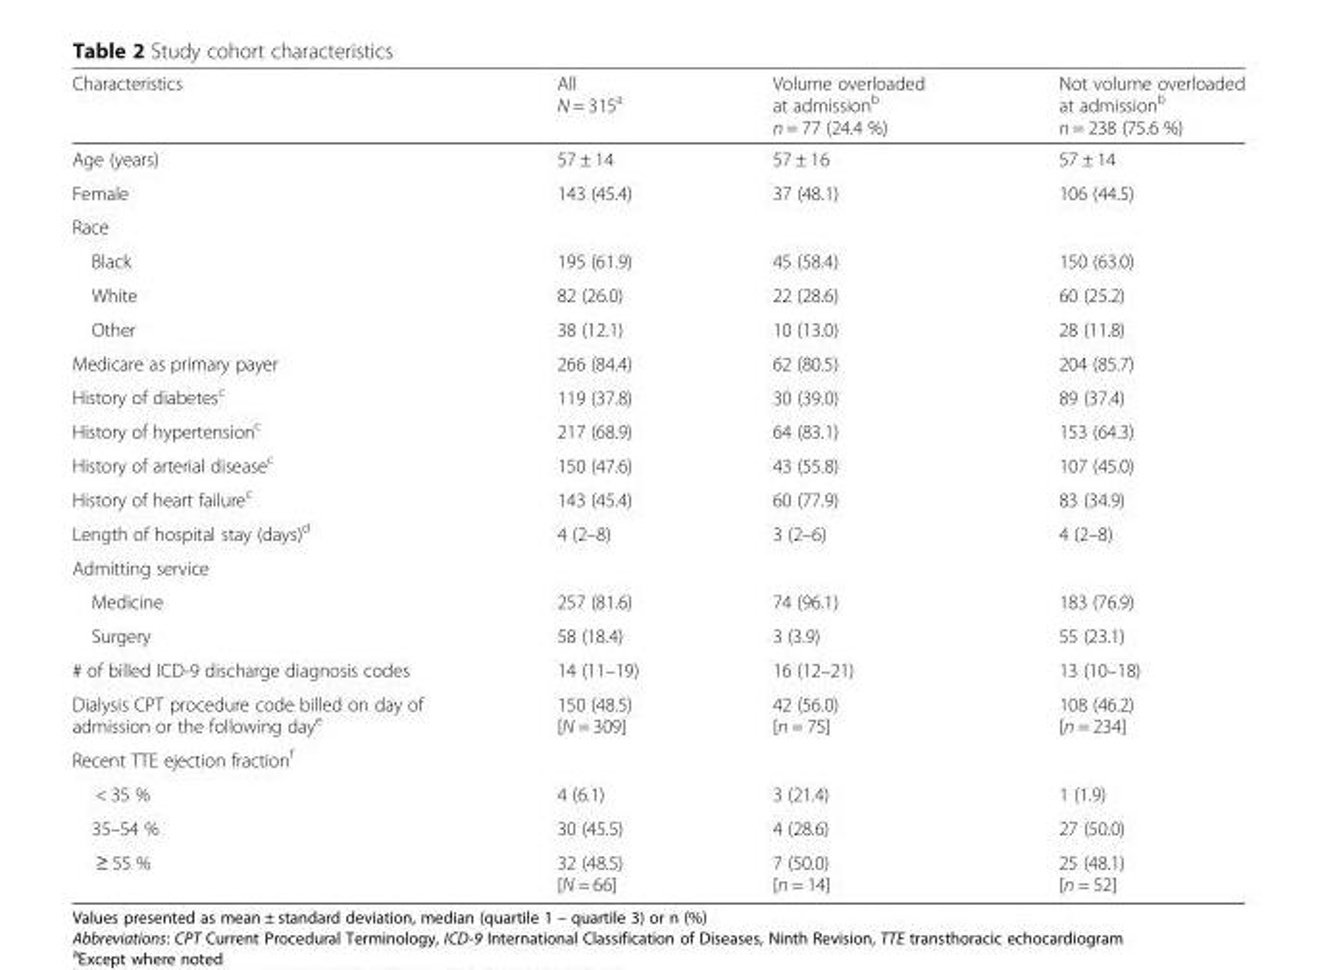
<table><thead><tr><td>Characteristics</td><td>All N = 315<sup>a</sup></td><td>Volume overloaded at admission<sup>b</sup> n = 77 (24.4 %)</td><td>Not volume overloaded at admission<sup>b</sup> n = 238 (75.6 %)</td></tr></thead><tbody><tr><td>Age (years)</td><td>57 ± 14</td><td>57 ± 16</td><td>57 ± 14</td></tr><tr><td>Female</td><td>143 (45.4)</td><td>37 (48.1)</td><td>106 (44.5)</td></tr><tr><td colspan="4">Race</td></tr><tr><td>Black</td><td>195 (61.9)</td><td>45 (58.4)</td><td>150 (63.0)</td></tr><tr><td>White</td><td>82 (26.0)</td><td>22 (28.6)</td><td>60 (25.2)</td></tr><tr><td>Other</td><td>38 (12.1)</td><td>10 (13.0)</td><td>28 (11.8)</td></tr><tr><td>Medicare as primary payer</td><td>266 (84.4)</td><td>62 (80.5)</td><td>204 (85.7)</td></tr><tr><td>History of diabetes<sup>c</sup></td><td>119 (37.8)</td><td>30 (39.0)</td><td>89 (37.4)</td></tr><tr><td>History of hypertension<sup>c</sup></td><td>217 (68.9)</td><td>64 (83.1)</td><td>153 (64.3)</td></tr><tr><td>History of arterial disease<sup>c</sup></td><td>150 (47.6)</td><td>43 (55.8)</td><td>107 (45.0)</td></tr><tr><td>History of heart failure<sup>c</sup></td><td>143 (45.4)</td><td>60 (77.9)</td><td>83 (34.9)</td></tr><tr><td>Length of hospital stay (days)<sup>d</sup></td><td>4 (2–8)</td><td>3 (2–6)</td><td>4 (2–8)</td></tr><tr><td colspan="4">Admitting service</td></tr><tr><td>Medicine</td><td>257 (81.6)</td><td>74 (96.1)</td><td>183 (76.9)</td></tr><tr><td>Surgery</td><td>58 (18.4)</td><td>3 (3.9)</td><td>55 (23.1)</td></tr><tr><td># of billed ICD-9 discharge diagnosis codes</td><td>14 (11–19)</td><td>16 (12–21)</td><td>13 (10–18)</td></tr><tr><td>Dialysis CPT procedure code billed on day of admission or the following day<sup>e</sup></td><td>150 (48.5) [N = 309]</td><td>42 (56.0) [n = 75]</td><td>108 (46.2) [n = 234]</td></tr><tr><td colspan="4">Recent TTE ejection fraction<sup>f</sup></td></tr><tr><td>&lt; 35 %</td><td>4 (6.1)</td><td>3 (21.4)</td><td>1 (1.9)</td></tr><tr><td>35–54 %</td><td>30 (45.5)</td><td>4 (28.6)</td><td>27 (50.0)</td></tr><tr><td>≥ 55 %</td><td>32 (48.5) [N = 66]</td><td>7 (50.0) [n = 14]</td><td>25 (48.1) [n = 52]</td></tr></tbody></table>